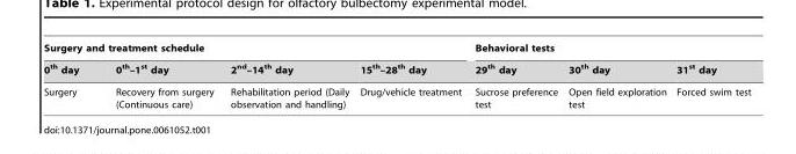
<table><thead><tr><td colspan="4">Surgery and treatment schedule</td><td colspan="3">Behavioral tests</td></tr><tr><td>0th day</td><td>0th–1st day</td><td>2nd–14th day</td><td>15th–28th day</td><td>29th day</td><td>30th day</td><td>31st day</td></tr></thead><tbody><tr><td>Surgery</td><td>Recovery from surgery (Continuous care)</td><td>Rehabilitation period (Daily observation and handling)</td><td>Drug/vehicle treatment</td><td>Sucrose preference test</td><td>Open field exploration test</td><td>Forced swim test</td></tr></tbody></table>